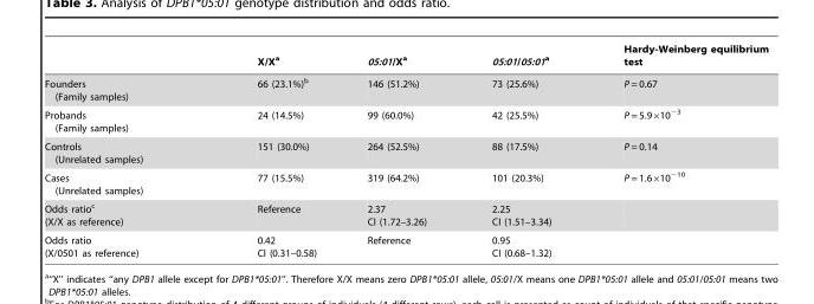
<table><thead><tr><td></td><td>X/X<sup>a</sup></td><td>05:01/X<sup>a</sup></td><td>05:01/05:01a</td><td>Hardy-Weinberg equilibrium test</td></tr></thead><tbody><tr><td>Founders (Family samples)</td><td>66 (23.1%)<sup>b</sup></td><td>146 (51.2%)</td><td>73 (25.6%)</td><td>P = 0.67</td></tr><tr><td>Probands (Family samples)</td><td>24 (14.5%)</td><td>99 (60.0%)</td><td>42 (25.5%)</td><td>P = 5.9×10<sup>−3</sup></td></tr><tr><td>Controls (Unrelated samples)</td><td>151 (30.0%)</td><td>264 (52.5%)</td><td>88 (17.5%)</td><td>P = 0.14</td></tr><tr><td>Cases (Unrelated samples)</td><td>77 (15.5%)</td><td>319 (64.2%)</td><td>101 (20.3%)</td><td>P = 1.6×10<sup>−10</sup></td></tr><tr><td>Odds ratio<sup>c</sup> (X/X as reference)</td><td>Reference</td><td>2.37 CI (1.72–3.26)</td><td>2.25 CI (1.51–3.34)</td><td></td></tr><tr><td>Odds ratio (X/0501 as reference)</td><td>0.42 CI (0.31–0.58)</td><td>Reference</td><td>0.95 CI (0.68–1.32)</td><td></td></tr></tbody></table>